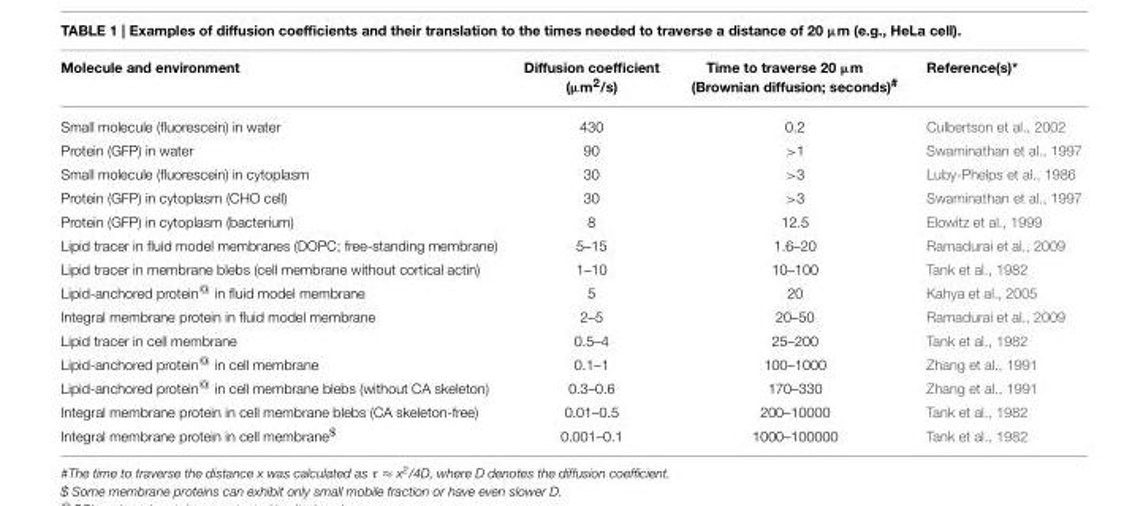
<table><thead><tr><td>Molecule and environment</td><td>Diffusion coefficient (µm<sup>2</sup>/s)</td><td>Time to traverse 20 µm (Brownian diffusion; seconds)<sup>#</sup></td><td>Reference(s)*</td></tr></thead><tbody><tr><td>Small molecule (fluorescein) in water</td><td>430</td><td>0.2</td><td>Culbertson et al., 2002</td></tr><tr><td>Protein (GFP) in water</td><td>90</td><td>&gt;1</td><td>Swaminathan et al., 1997</td></tr><tr><td>Small molecule (fluorescein) in cytoplasm</td><td>30</td><td>&gt;3</td><td>Luby-Phelps et al., 1986</td></tr><tr><td>Protein (GFP) in cytoplasm (CHO cell)</td><td>30</td><td>&gt;3</td><td>Swaminathan et al., 1997</td></tr><tr><td>Protein (GFP) in cytoplasm (bacterium)</td><td>8</td><td>12.5</td><td>Elowitz et al., 1999</td></tr><tr><td>Lipid tracer in fluid model membranes (DOPC; free-standing membrane)</td><td>5–15</td><td>1.6–20</td><td>Ramadurai et al., 2009</td></tr><tr><td>Lipid tracer in membrane blebs (cell membrane without cortical actin)</td><td>1–10</td><td>10–100</td><td>Tank et al., 1982</td></tr><tr><td>Lipid-anchored protein<sup>@</sup> in fluid model membrane</td><td>5</td><td>20</td><td>Kahya et al., 2005</td></tr><tr><td>Integral membrane protein in fluid model membrane</td><td>2–5</td><td>20–50</td><td>Ramadurai et al., 2009</td></tr><tr><td>Lipid tracer in cell membrane</td><td>0.5–4</td><td>25–200</td><td>Tank et al., 1982</td></tr><tr><td>Lipid-anchored protein<sup>@</sup> in cell membrane</td><td>0.1–1</td><td>100–1000</td><td>Zhang et al., 1991</td></tr><tr><td>Lipid-anchored protein<sup>@</sup> in cell membrane blebs (without CA skeleton)</td><td>0.3–0.6</td><td>170–330</td><td>Zhang et al., 1991</td></tr><tr><td>Integral membrane protein in cell membrane blebs (CA skeleton-free)</td><td>0.01–0.5</td><td>200–10000</td><td>Tank et al., 1982</td></tr><tr><td>Integral membrane protein in cell membrane<sup>$</sup></td><td>0.001–0.1</td><td>1000–100000</td><td>Tank et al., 1982</td></tr></tbody></table>